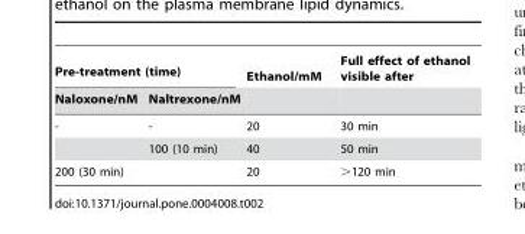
<table><thead><tr><td colspan="2">Pre-treatment (time)</td><td rowspan="2">Ethanol/mM</td><td rowspan="2">Full effect of ethanol visible after</td></tr><tr><td>Naloxone/nM</td><td>Naltrexone/nM</td></tr></thead><tbody><tr><td rowspan="2">-</td><td>-</td><td>20</td><td>30 min</td></tr><tr><td>100 (10 min)</td><td>40</td><td>50 min</td></tr><tr><td>200 (30 min)</td><td></td><td>20</td><td>&gt;120 min</td></tr></tbody></table>